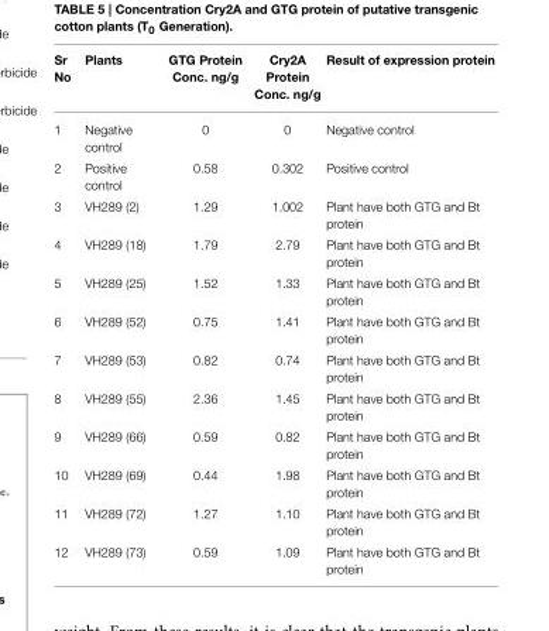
<table><thead><tr><td>Sr No</td><td>Plants</td><td>GTG Protein Conc. ng/g</td><td>Cry2A Protein Conc. ng/g</td><td>Result of expression protein</td></tr></thead><tbody><tr><td>1</td><td>Negative control</td><td>0</td><td>0</td><td>Negative control</td></tr><tr><td>2</td><td>Positive control</td><td>0.58</td><td>0.302</td><td>Positive control</td></tr><tr><td>3</td><td>VH289 (2)</td><td>1.29</td><td>1.002</td><td>Plant have both GTG and Bt protein</td></tr><tr><td>4</td><td>VH289 (18)</td><td>1.79</td><td>2.79</td><td>Plant have both GTG and Bt protein</td></tr><tr><td>5</td><td>VH289 (25)</td><td>1.52</td><td>1.33</td><td>Plant have both GTG and Bt protein</td></tr><tr><td>6</td><td>VH289 (52)</td><td>0.75</td><td>1.41</td><td>Plant have both GTG and Bt protein</td></tr><tr><td>7</td><td>VH289 (53)</td><td>0.82</td><td>0.74</td><td>Plant have both GTG and Bt protein</td></tr><tr><td>8</td><td>VH289 (55)</td><td>2.36</td><td>1.45</td><td>Plant have both GTG and Bt protein</td></tr><tr><td>9</td><td>VH289 (66)</td><td>0.59</td><td>0.82</td><td>Plant have both GTG and Bt protein</td></tr><tr><td>10</td><td>VH289 (69)</td><td>0.44</td><td>1.98</td><td>Plant have both GTG and Bt protein</td></tr><tr><td>11</td><td>VH289 (72)</td><td>1.27</td><td>1.10</td><td>Plant have both GTG and Bt protein</td></tr><tr><td>12</td><td>VH289 (73)</td><td>0.59</td><td>1.09</td><td>Plant have both GTG and Bt protein</td></tr></tbody></table>